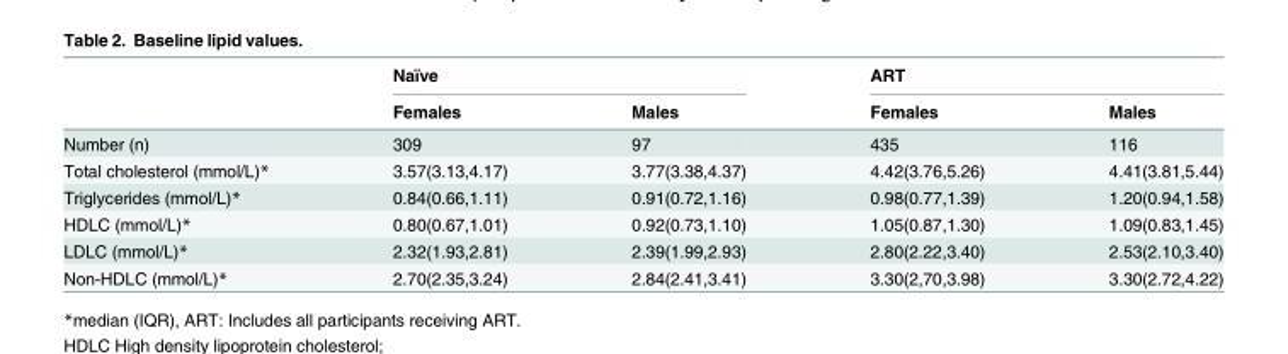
<table><thead><tr><td rowspan="2"></td><td colspan="2">Naïve</td><td colspan="2">ART</td></tr><tr><td>Females</td><td>Males</td><td>Females</td><td>Males</td></tr></thead><tbody><tr><td>Number (n)</td><td>309</td><td>97</td><td>435</td><td>116</td></tr><tr><td>Total cholesterol (mmol/L)*</td><td>3.57(3.13,4.17)</td><td>3.77(3.38,4.37)</td><td>4.42(3.76,5.26)</td><td>4.41(3.81,5.44)</td></tr><tr><td>Triglycerides (mmol/L)*</td><td>0.84(0.66,1.11)</td><td>0.91(0.72,1.16)</td><td>0.98(0.77,1.39)</td><td>1.20(0.94,1.58)</td></tr><tr><td>HDLC (mmol/L)*</td><td>0.80(0.67,1.01)</td><td>0.92(0.73,1.10)</td><td>1.05(0.87,1.30)</td><td>1.09(0.83,1.45)</td></tr><tr><td>LDLC (mmol/L)*</td><td>2.32(1.93,2.81)</td><td>2.39(1.99,2.93)</td><td>2.80(2.22,3.40)</td><td>2.53(2.10,3.40)</td></tr><tr><td>Non-HDLC (mmol/L)*</td><td>2.70(2.35,3.24)</td><td>2.84(2.41,3.41)</td><td>3.30(2,70,3.98)</td><td>3.30(2.72,4.22)</td></tr></tbody></table>